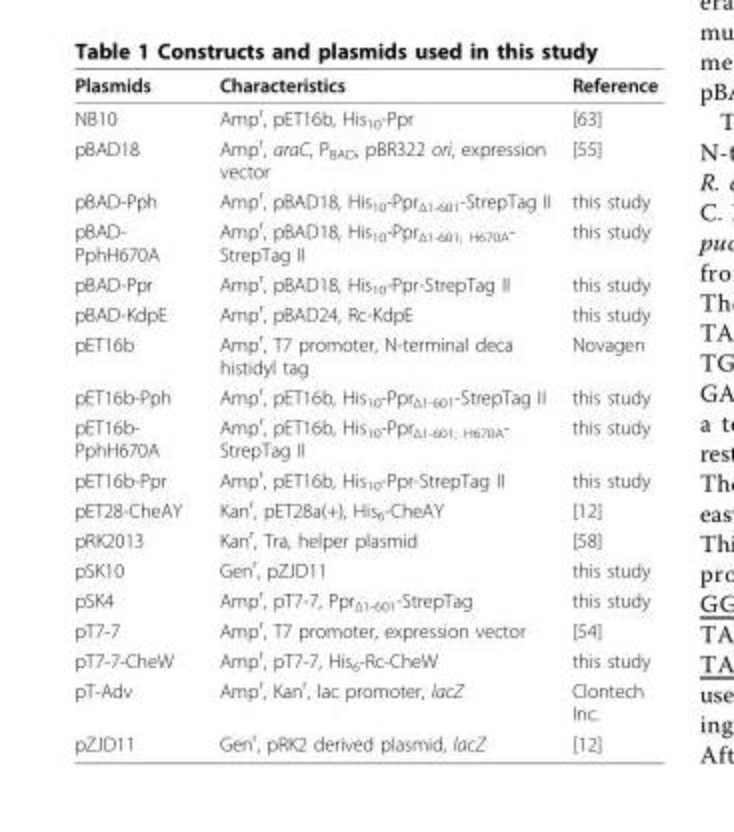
<table><thead><tr><td>Plasmids</td><td>Characteristics</td><td>Reference</td></tr></thead><tbody><tr><td>NB10</td><td>Amp<sup>r</sup>, pET16b, His<sub>10</sub>-Ppr</td><td>[63]</td></tr><tr><td>pBAD18</td><td>Amp<sup>r</sup>, araC, P<sub>BAD</sub>, pBR322 ori, expression vector</td><td>[55]</td></tr><tr><td>pBAD-Pph</td><td>Amp<sup>r</sup>, pBAD18, His<sub>10</sub>-Ppr<sub>Δ1-601</sub>-StrepTag II</td><td>this study</td></tr><tr><td>pBAD- PphH670A</td><td>Amp<sup>r</sup>, pBAD18, His<sub>10</sub>-Ppr<sub>Δ1-601; H670A</sub>- StrepTag II</td><td>this study</td></tr><tr><td>pBAD-Ppr</td><td>Amp<sup>r</sup>, pBAD18, His<sub>10</sub>-Ppr-StrepTag II</td><td>this study</td></tr><tr><td>pBAD-KdpE</td><td>Amp<sup>r</sup>, pBAD24, Rc-KdpE</td><td>this study</td></tr><tr><td>pET16b</td><td>Amp<sup>r</sup>, T7 promoter, N-terminal deca histidyl tag</td><td>Novagen</td></tr><tr><td>pET16b-Pph</td><td>Amp<sup>r</sup>, pET16b, His<sub>10</sub>-Ppr<sub>Δ1-601</sub>-StrepTag II</td><td>this study</td></tr><tr><td>pET16b- PphH670A</td><td>Amp<sup>r</sup>, pET16b, His<sub>10</sub>-Ppr<sub>Δ1-601; H670A</sub>- StrepTag II</td><td>this study</td></tr><tr><td>pET16b-Ppr</td><td>Amp<sup>r</sup>, pET16b, His<sub>10</sub>-Ppr-StrepTag II</td><td>this study</td></tr><tr><td>pET28-CheAY</td><td>Kan<sup>r</sup>, pET28a(+), His<sub>6</sub>-CheAY</td><td>[12]</td></tr><tr><td>pRK2013</td><td>Kan<sup>r</sup>, Tra, helper plasmid</td><td>[58]</td></tr><tr><td>pSK10</td><td>Gen<sup>r</sup>, pZJD11</td><td>this study</td></tr><tr><td>pSK4</td><td>Amp<sup>r</sup>, pT7-7, Ppr<sub>Δ1-601</sub>-StrepTag</td><td>this study</td></tr><tr><td>pT7-7</td><td>Amp<sup>r</sup>, T7 promoter, expression vector</td><td>[54]</td></tr><tr><td>pT7-7-CheW</td><td>Amp<sup>r</sup>, pT7-7, His<sub>6</sub>-Rc-CheW</td><td>this study</td></tr><tr><td>pT-Adv</td><td>Amp<sup>r</sup>, Kan<sup>r</sup>, lac promoter, lacZ</td><td>Clontech Inc.</td></tr><tr><td>pZJD11</td><td>Gen<sup>r</sup>, pRK2 derived plasmid, lacZ</td><td>[12]</td></tr></tbody></table>